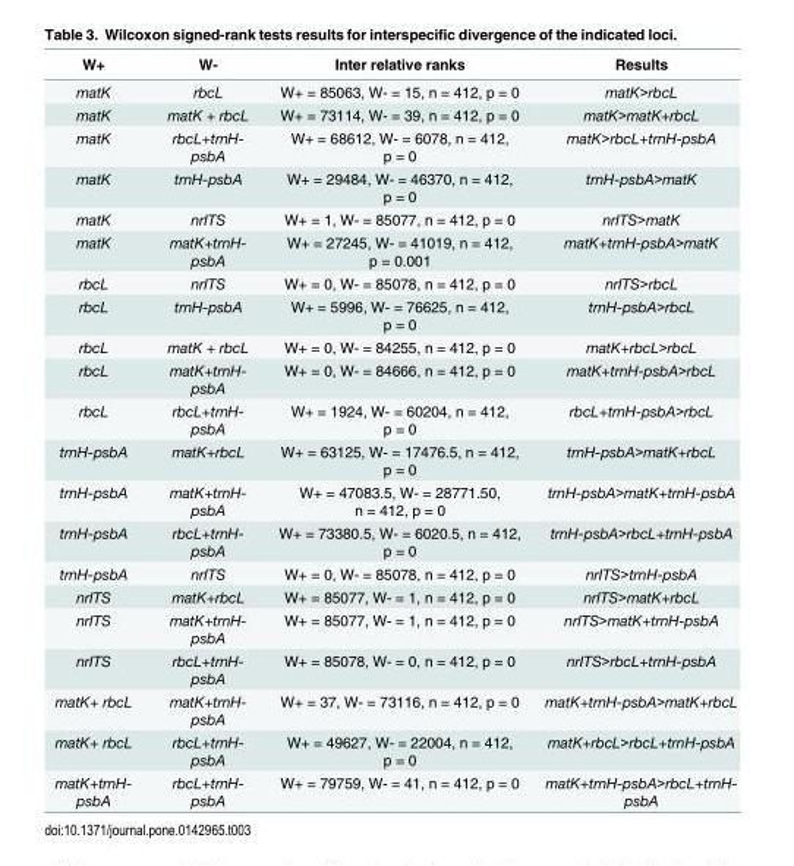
<table><thead><tr><td>W+</td><td>W-</td><td>Inter relative ranks</td><td>Results</td></tr></thead><tbody><tr><td>matK</td><td>rbcL</td><td>W+ = 85063, W- = 15, n = 412, p = 0</td><td>matK&gt;rbcL</td></tr><tr><td>matK</td><td>matK + rbcL</td><td>W+ = 73114, W- = 39, n = 412, p = 0</td><td>matK&gt;matK+rbcL</td></tr><tr><td>matK</td><td>rbcL+trnH- psbA</td><td>W+ = 68612, W- = 6078, n = 412, p = 0</td><td>matK&gt;rbcL+trnH-psbA</td></tr><tr><td>matK</td><td>trnH-psbA</td><td>W+ = 29484, W- = 46370, n = 412, p = 0</td><td>trnH-psbA&gt;matK</td></tr><tr><td>matK</td><td>nrITS</td><td>W+ = 1, W- = 85077, n = 412, p = 0</td><td>nrITS&gt;matK</td></tr><tr><td>matK</td><td>matK+trnH- psbA</td><td>W+ = 27245, W- = 41019, n = 412, p = 0.001</td><td>matK+trnH-psbA&gt;matK</td></tr><tr><td>rbcL</td><td>nrITS</td><td>W+ = 0, W- = 85078, n = 412, p = 0</td><td>nrITS&gt;rbcL</td></tr><tr><td>rbcL</td><td>trnH-psbA</td><td>W+ = 5996, W- = 76625, n = 412, p = 0</td><td>trnH-psbA&gt;rbcL</td></tr><tr><td>rbcL</td><td>matK + rbcL</td><td>W+ = 0, W- = 84255, n = 412, p = 0</td><td>matK+rbcL&gt;rbcL</td></tr><tr><td>rbcL</td><td>matK+trnH- psbA</td><td>W+ = 0, W- = 84666, n = 412, p = 0</td><td>matK+trnH-psbA&gt;rbcL</td></tr><tr><td>rbcL</td><td>rbcL+trnH- psbA</td><td>W+ = 1924, W- = 60204, n = 412, p = 0</td><td>rbcL+trnH-psbA&gt;rbcL</td></tr><tr><td>trnH-psbA</td><td>matK+rbcL</td><td>W+ = 63125, W- = 17476.5, n = 412, p = 0</td><td>trnH-psbA&gt;matK+rbcL</td></tr><tr><td>trnH-psbA</td><td>matK+trnH- psbA</td><td>W+ = 47083.5, W- = 28771.50, n = 412, p = 0</td><td>trnH-psbA&gt;matK+trnH-psbA</td></tr><tr><td>trnH-psbA</td><td>rbcL+trnH- psbA</td><td>W+ = 73380.5, W- = 6020.5, n = 412, p = 0</td><td>trnH-psbA&gt;rbcL+trnH-psbA</td></tr><tr><td>trnH-psbA</td><td>nrITS</td><td>W+ = 0, W- = 85078, n = 412, p = 0</td><td>nrITS&gt;trnH-psbA</td></tr><tr><td>nrITS</td><td>matK+rbcL</td><td>W+ = 85077, W- = 1, n = 412, p = 0</td><td>nrITS&gt;matK+rbcL</td></tr><tr><td>nrITS</td><td>matK+trnH- psbA</td><td>W+ = 85077, W- = 1, n = 412, p = 0</td><td>nrITS&gt;matK+trnH-psbA</td></tr><tr><td>nrITS</td><td>rbcL+trnH- psbA</td><td>W+ = 85078, W- = 0, n = 412, p = 0</td><td>nrITS&gt;rbcL+trnH-psbA</td></tr><tr><td>matK+ rbcL</td><td>matK+trnH- psbA</td><td>W+ = 37, W- = 73116, n = 412, p = 0</td><td>matK+trnH-psbA&gt;matK+rbcL</td></tr><tr><td>matK+ rbcL</td><td>rbcL+trnH- psbA</td><td>W+ = 49627, W- = 22004, n = 412, p = 0</td><td>matK+rbcL&gt;rbcL+trnH-psbA</td></tr><tr><td>matK+trnH- psbA</td><td>rbcL+trnH- psbA</td><td>W+ = 79759, W- = 41, n = 412, p = 0</td><td>matK+trnH-psbA&gt;rbcL+trnH- psbA</td></tr></tbody></table>